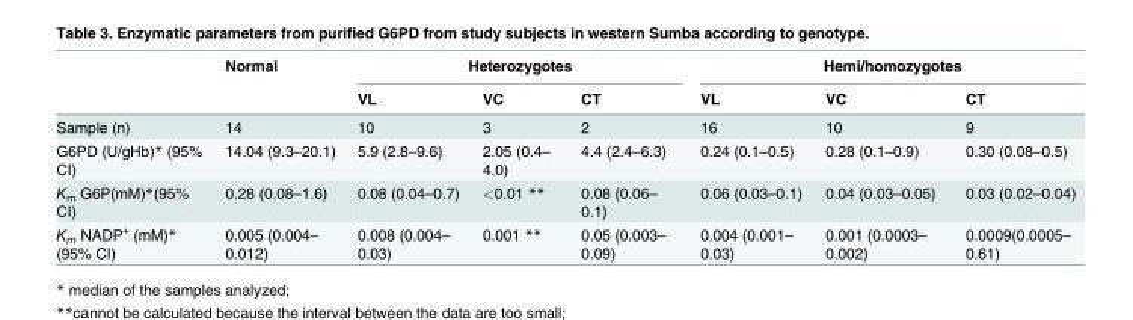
<table><thead><tr><td rowspan="2"></td><td rowspan="2">Normal</td><td colspan="3">Heterozygotes</td><td colspan="3">Hemi/homozygotes</td></tr><tr><td>VL</td><td>VC</td><td>CT</td><td>VL</td><td>VC</td><td>CT</td></tr></thead><tbody><tr><td>Sample (n)</td><td>14</td><td>10</td><td>3</td><td>2</td><td>16</td><td>10</td><td>9</td></tr><tr><td>G6PD (U/gHb)* (95% CI)</td><td>14.04 (9.3–20.1)</td><td>5.9 (2.8–9.6)</td><td>2.05 (0.4– 4.0)</td><td>4.4 (2.4–6.3)</td><td>0.24 (0.1–0.5)</td><td>0.28 (0.1–0.9)</td><td>0.30 (0.08–0.5)</td></tr><tr><td>K<sub>m</sub> G6P(mM)*(95% CI)</td><td>0.28 (0.08–1.6)</td><td>0.08 (0.04–0.7)</td><td>&lt;0.01 **</td><td>0.08 (0.06– 0.1)</td><td>0.06 (0.03–0.1)</td><td>0.04 (0.03–0.05)</td><td>0.03 (0.02–0.04)</td></tr><tr><td>K<sub>m</sub> NADP<sup>+</sup> (mM)* (95% CI)</td><td>0.005 (0.004– 0.012)</td><td>0.008 (0.004– 0.03)</td><td>0.001 **</td><td>0.05 (0.003– 0.09)</td><td>0.004 (0.001– 0.03)</td><td>0.001 (0.0003– 0.002)</td><td>0.0009(0.0005– 0.61)</td></tr></tbody></table>